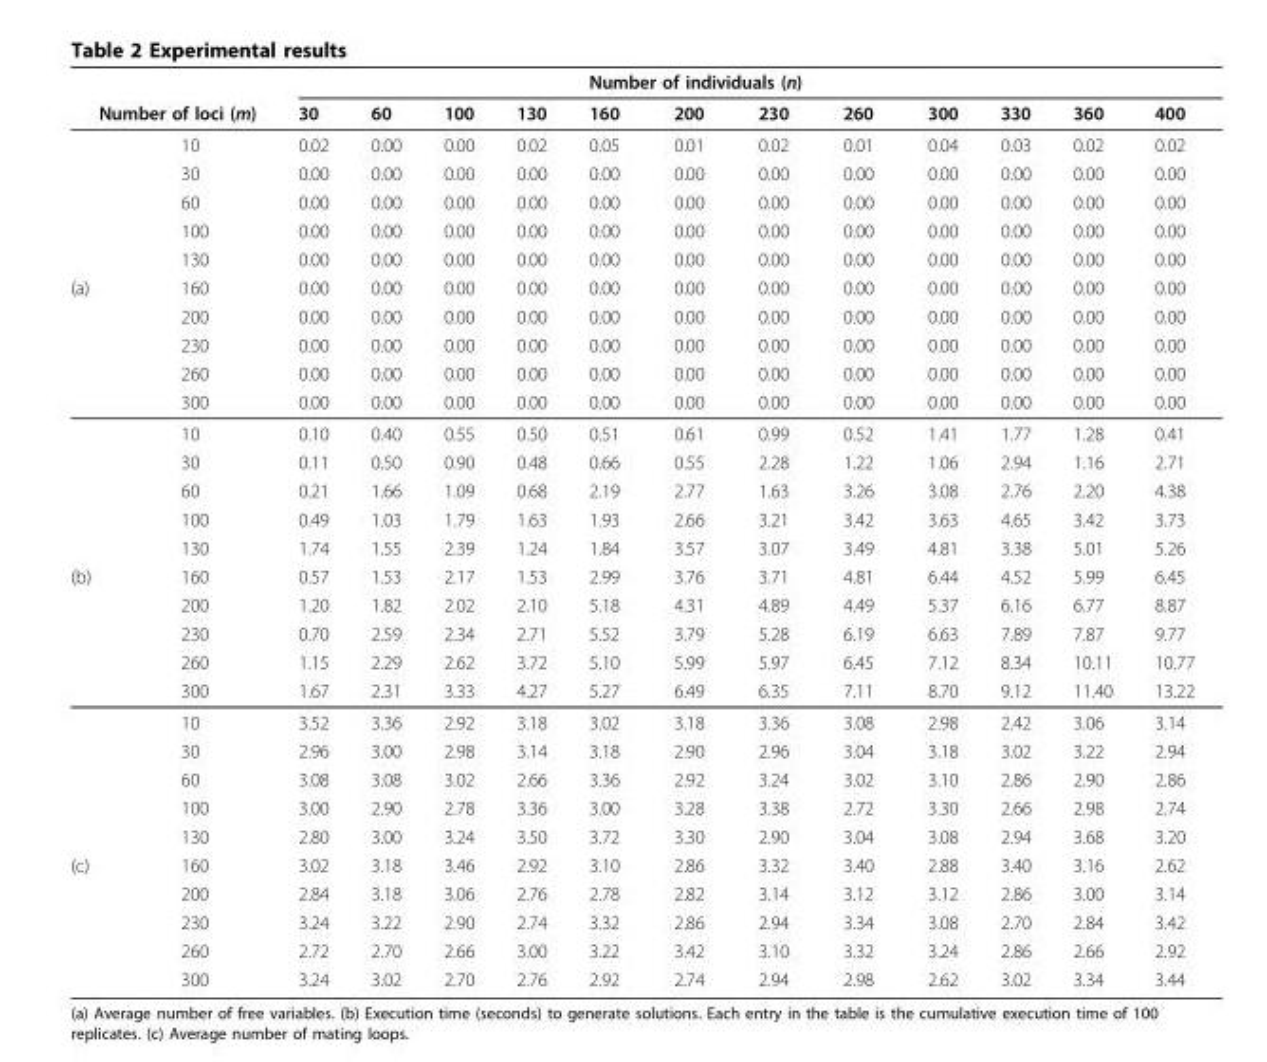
<table><thead><tr><td></td><td></td><td rowspan="2">30</td><td rowspan="2">60</td><td rowspan="2">100</td><td rowspan="2">130</td><td colspan="4">Number of individuals (n)</td><td rowspan="2">300</td><td rowspan="2">330</td><td rowspan="2">360</td><td rowspan="2">400</td></tr><tr><td colspan="2">Number of loci (m)</td><td>160</td><td>200</td><td>230</td><td>260</td></tr></thead><tbody><tr><td></td><td>10</td><td>0.02</td><td>0.00</td><td>0.00</td><td>0.02</td><td>0.05</td><td>0.01</td><td>0.02</td><td>0.01</td><td>0.04</td><td>0.03</td><td>0.02</td><td>0.02</td></tr><tr><td></td><td>30</td><td>0.00</td><td>0.00</td><td>0.00</td><td>0.00</td><td>0.00</td><td>0.00</td><td>0.00</td><td>0.00</td><td>0.00</td><td>0.00</td><td>0.00</td><td>0.00</td></tr><tr><td></td><td>60</td><td>0.00</td><td>0.00</td><td>0.00</td><td>0.00</td><td>0.00</td><td>0.00</td><td>0.00</td><td>0.00</td><td>0.00</td><td>0.00</td><td>0.00</td><td>0.00</td></tr><tr><td></td><td>100</td><td>0.00</td><td>0.00</td><td>0.00</td><td>0.00</td><td>0.00</td><td>0.00</td><td>0.00</td><td>0.00</td><td>0.00</td><td>0.00</td><td>0.00</td><td>0.00</td></tr><tr><td></td><td>130</td><td>0.00</td><td>0.00</td><td>0.00</td><td>0.00</td><td>0.00</td><td>0.00</td><td>0.00</td><td>0.00</td><td>0.00</td><td>0.00</td><td>0.00</td><td>0.00</td></tr><tr><td rowspan="10">(a)</td><td>160</td><td>0.00</td><td>0.00</td><td>0.00</td><td>0.00</td><td>0.00</td><td>0.00</td><td>0.00</td><td>0.00</td><td>0.00</td><td>0.00</td><td>0.00</td><td>0.00</td></tr><tr><td>200</td><td>0.00</td><td>0.00</td><td>0.00</td><td>0.00</td><td>0.00</td><td>0.00</td><td>0.00</td><td>0.00</td><td>0.00</td><td>0.00</td><td>0.00</td><td>0.00</td></tr><tr><td>230</td><td>0.00</td><td>0.00</td><td>0.00</td><td>0.00</td><td>0.00</td><td>0.00</td><td>0.00</td><td>0.00</td><td>0.00</td><td>0.00</td><td>0.00</td><td>0.00</td></tr><tr><td>260</td><td>0.00</td><td>0.00</td><td>0.00</td><td>0.00</td><td>0.00</td><td>0.00</td><td>0.00</td><td>0.00</td><td>0.00</td><td>0.00</td><td>0.00</td><td>0.00</td></tr><tr><td>300</td><td>0.00</td><td>0.00</td><td>0.00</td><td>0.00</td><td>0.00</td><td>0.00</td><td>0.00</td><td>0.00</td><td>0.00</td><td>0.00</td><td>0.00</td><td>0.00</td></tr><tr><td>10</td><td>0.10</td><td>0.40</td><td>0.55</td><td>0.50</td><td>0.51</td><td>0.61</td><td>0.99</td><td>0.52</td><td>1.41</td><td>1.77</td><td>1.28</td><td>0.41</td></tr><tr><td>30</td><td>0.11</td><td>0.50</td><td>0.90</td><td>0.48</td><td>0.66</td><td>0.55</td><td>2.28</td><td>1.22</td><td>1.06</td><td>2.94</td><td>1.16</td><td>2.71</td></tr><tr><td>60</td><td>0.21</td><td>1.66</td><td>1.09</td><td>0.68</td><td>2.19</td><td>2.77</td><td>1.63</td><td>3.26</td><td>3.08</td><td>2.76</td><td>2.20</td><td>4.38</td></tr><tr><td>100</td><td>0.49</td><td>1.03</td><td>1.79</td><td>1.63</td><td>1.93</td><td>2.66</td><td>3.21</td><td>3.42</td><td>3.63</td><td>4.65</td><td>3.42</td><td>3.73</td></tr><tr><td>130</td><td>1.74</td><td>1.55</td><td>2.39</td><td>1.24</td><td>1.84</td><td>3.57</td><td>3.07</td><td>3.49</td><td>4.81</td><td>3.38</td><td>5.01</td><td>5.26</td></tr><tr><td rowspan="10">(b)</td><td>160</td><td>0.57</td><td>1.53</td><td>2.17</td><td>1.53</td><td>2.99</td><td>3.76</td><td>3.71</td><td>4.81</td><td>6.44</td><td>4.52</td><td>5.99</td><td>6.45</td></tr><tr><td>200</td><td>1.20</td><td>1.82</td><td>2.02</td><td>2.10</td><td>5.18</td><td>4.31</td><td>4.89</td><td>4.49</td><td>5.37</td><td>6.16</td><td>6.77</td><td>8.87</td></tr><tr><td>230</td><td>0.70</td><td>2.59</td><td>2.34</td><td>2.71</td><td>5.52</td><td>3.79</td><td>5.28</td><td>6.19</td><td>6.63</td><td>7.89</td><td>7.87</td><td>9.77</td></tr><tr><td>260</td><td>1.15</td><td>2.29</td><td>2.62</td><td>3.72</td><td>5.10</td><td>5.99</td><td>5.97</td><td>6.45</td><td>7.12</td><td>8.34</td><td>10.11</td><td>10.77</td></tr><tr><td>300</td><td>1.67</td><td>2.31</td><td>3.33</td><td>4.27</td><td>5.27</td><td>6.49</td><td>6.35</td><td>7.11</td><td>8.70</td><td>9.12</td><td>11.40</td><td>13.22</td></tr><tr><td>10</td><td>3.52</td><td>3.36</td><td>2.92</td><td>3.18</td><td>3.02</td><td>3.18</td><td>3.36</td><td>3.08</td><td>2.98</td><td>2.42</td><td>3.06</td><td>3.14</td></tr><tr><td>30</td><td>2.96</td><td>3.00</td><td>2.98</td><td>3.14</td><td>3.18</td><td>2.90</td><td>2.96</td><td>3.04</td><td>3.18</td><td>3.02</td><td>3.22</td><td>2.94</td></tr><tr><td>60</td><td>3.08</td><td>3.08</td><td>3.02</td><td>2.66</td><td>3.36</td><td>2.92</td><td>3.24</td><td>3.02</td><td>3.10</td><td>2.86</td><td>2.90</td><td>2.86</td></tr><tr><td>100</td><td>3.00</td><td>2.90</td><td>2.78</td><td>3.36</td><td>3.00</td><td>3.28</td><td>3.38</td><td>2.72</td><td>3.30</td><td>2.66</td><td>2.98</td><td>2.74</td></tr><tr><td>130</td><td>2.80</td><td>3.00</td><td>3.24</td><td>3.50</td><td>3.72</td><td>3.30</td><td>2.90</td><td>3.04</td><td>3.08</td><td>2.94</td><td>3.68</td><td>3.20</td></tr><tr><td rowspan="5">(c)</td><td>160</td><td>3.02</td><td>3.18</td><td>3.46</td><td>2.92</td><td>3.10</td><td>2.86</td><td>3.32</td><td>3.40</td><td>2.88</td><td>3.40</td><td>3.16</td><td>2.62</td></tr><tr><td>200</td><td>2.84</td><td>3.18</td><td>3.06</td><td>2.76</td><td>2.78</td><td>2.82</td><td>3.14</td><td>3.12</td><td>3.12</td><td>2.86</td><td>3.00</td><td>3.14</td></tr><tr><td>230</td><td>3.24</td><td>3.22</td><td>2.90</td><td>2.74</td><td>3.32</td><td>2.86</td><td>2.94</td><td>3.34</td><td>3.08</td><td>2.70</td><td>2.84</td><td>3.42</td></tr><tr><td>260</td><td>2.72</td><td>2.70</td><td>2.66</td><td>3.00</td><td>3.22</td><td>3.42</td><td>3.10</td><td>3.32</td><td>3.24</td><td>2.86</td><td>2.66</td><td>2.92</td></tr><tr><td>300</td><td>3.24</td><td>3.02</td><td>2.70</td><td>2.76</td><td>2.92</td><td>2.74</td><td>2.94</td><td>2.98</td><td>2.62</td><td>3.02</td><td>3.34</td><td>3.44</td></tr></tbody></table>